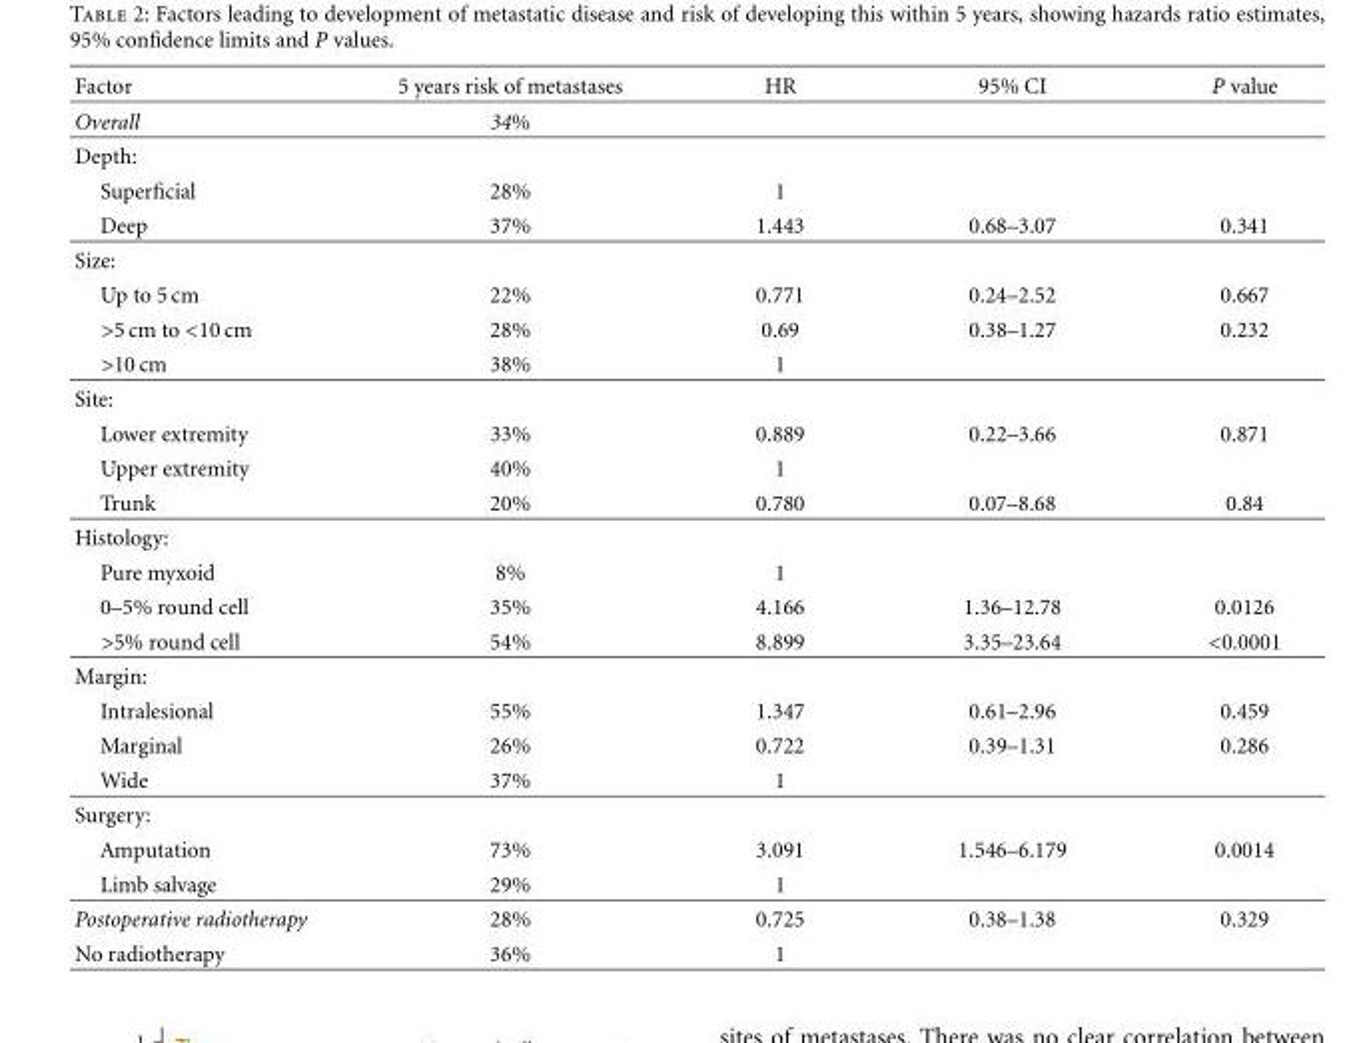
<table><thead><tr><td>Factor</td><td>5 years risk of metastases</td><td>HR</td><td>95% CI</td><td>P value</td></tr></thead><tbody><tr><td>Overall</td><td>34%</td><td></td><td></td><td></td></tr><tr><td colspan="5">Depth:</td></tr><tr><td>Superficial</td><td>28%</td><td>1</td><td></td><td></td></tr><tr><td>Deep</td><td>37%</td><td>1.443</td><td>0.68–3.07</td><td>0.341</td></tr><tr><td colspan="5">Size:</td></tr><tr><td>Up to 5 cm</td><td>22%</td><td>0.771</td><td>0.24–2.52</td><td>0.667</td></tr><tr><td>&gt;5 cm to &lt;10 cm</td><td>28%</td><td>0.69</td><td>0.38–1.27</td><td>0.232</td></tr><tr><td>&gt;10 cm</td><td>38%</td><td>1</td><td></td><td></td></tr><tr><td colspan="5">Site:</td></tr><tr><td>Lower extremity</td><td>33%</td><td>0.889</td><td>0.22–3.66</td><td>0.871</td></tr><tr><td>Upper extremity</td><td>40%</td><td>1</td><td></td><td></td></tr><tr><td>Trunk</td><td>20%</td><td>0.780</td><td>0.07–8.68</td><td>0.84</td></tr><tr><td colspan="5">Histology:</td></tr><tr><td>Pure myxoid</td><td>8%</td><td>1</td><td></td><td></td></tr><tr><td>0–5% round cell</td><td>35%</td><td>4.166</td><td>1.36–12.78</td><td>0.0126</td></tr><tr><td>&gt;5% round cell</td><td>54%</td><td>8.899</td><td>3.35–23.64</td><td>&lt;0.0001</td></tr><tr><td colspan="5">Margin:</td></tr><tr><td>Intralesional</td><td>55%</td><td>1.347</td><td>0.61–2.96</td><td>0.459</td></tr><tr><td>Marginal</td><td>26%</td><td>0.722</td><td>0.39–1.31</td><td>0.286</td></tr><tr><td>Wide</td><td>37%</td><td>1</td><td></td><td></td></tr><tr><td colspan="5">Surgery:</td></tr><tr><td>Amputation</td><td>73%</td><td>3.091</td><td>1.546–6.179</td><td>0.0014</td></tr><tr><td>Limb salvage</td><td>29%</td><td>1</td><td></td><td></td></tr><tr><td>Postoperative radiotherapy</td><td>28%</td><td>0.725</td><td>0.38–1.38</td><td>0.329</td></tr><tr><td>No radiotherapy</td><td>36%</td><td>1</td><td></td><td></td></tr></tbody></table>